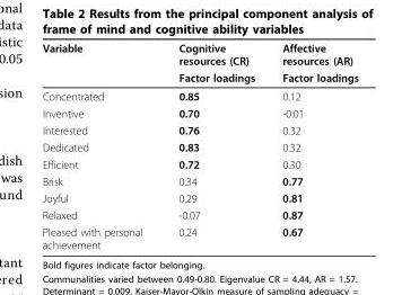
<table><thead><tr><td rowspan="2">Variable</td><td rowspan="2">Cognitive resources (CR) Factor loadings</td><td rowspan="2">Affective resources (AR) Factor loadings</td></tr><tr></tr></thead><tbody><tr><td>Concentrated</td><td>0.85</td><td>0.12</td></tr><tr><td>Inventive</td><td>0.70</td><td>-0.01</td></tr><tr><td>Interested</td><td>0.76</td><td>0.32</td></tr><tr><td>Dedicated</td><td>0.83</td><td>0.32</td></tr><tr><td>Efficient</td><td>0.72</td><td>0.30</td></tr><tr><td>Brisk</td><td>0.34</td><td>0.77</td></tr><tr><td>Joyful</td><td>0.29</td><td>0.81</td></tr><tr><td>Relaxed</td><td>-0.07</td><td>0.87</td></tr><tr><td>Pleased with personal achievement</td><td>0.24</td><td>0.67</td></tr></tbody></table>